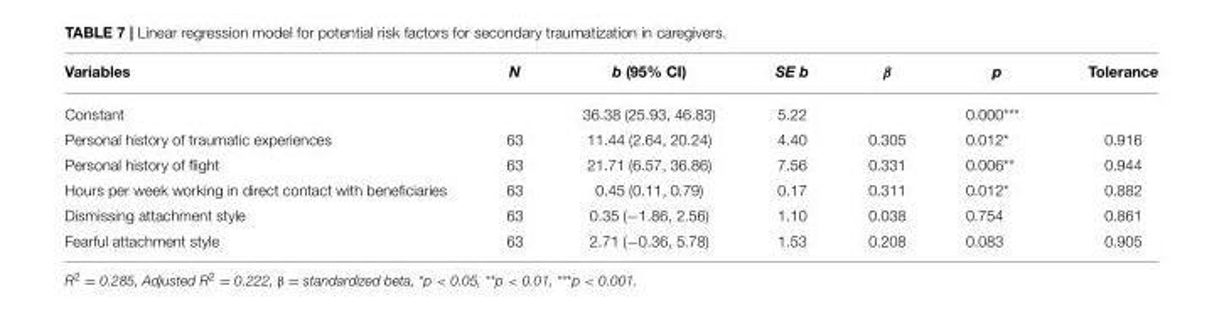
<table><thead><tr><td>Variables</td><td>N</td><td>b (95% CI)</td><td>SE b</td><td>β</td><td>p</td><td>Tolerance</td></tr></thead><tbody><tr><td>Constant</td><td></td><td>36.38 (25.93, 46.83)</td><td>5.22</td><td></td><td>0.000***</td><td></td></tr><tr><td>Personal history of traumatic experiences</td><td>63</td><td>11.44 (2.64, 20.24)</td><td>4.40</td><td>0.305</td><td>0.012*</td><td>0.916</td></tr><tr><td>Personal history of flight</td><td>63</td><td>21.71 (6.57, 36.86)</td><td>7.56</td><td>0.331</td><td>0.006**</td><td>0.944</td></tr><tr><td>Hours per week working in direct contact with beneficiaries</td><td>63</td><td>0.45 (0.11, 0.79)</td><td>0.17</td><td>0.311</td><td>0.012*</td><td>0.882</td></tr><tr><td>Dismissing attachment style</td><td>63</td><td>0.35 (−1.86, 2.56)</td><td>1.10</td><td>0.038</td><td>0.754</td><td>0.861</td></tr><tr><td>Fearful attachment style</td><td>63</td><td>2.71 (−0.36, 5.78)</td><td>1.53</td><td>0.208</td><td>0.083</td><td>0.905</td></tr></tbody></table>